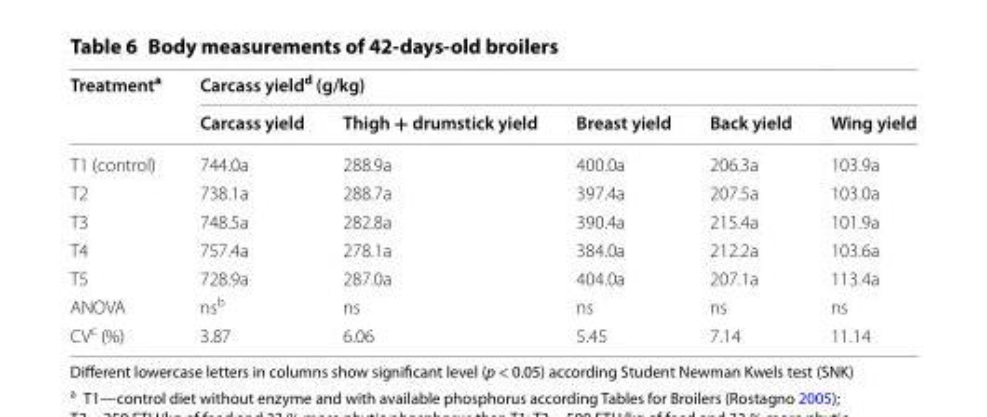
<table><thead><tr><td rowspan="2">Treatment<sup>a</sup></td><td colspan="5">Carcass yield<sup>d</sup> (g/kg)</td></tr><tr><td>Carcass yield</td><td>Thigh + drumstick yield</td><td>Breast yield</td><td>Back yield</td><td>Wing yield</td></tr></thead><tbody><tr><td>T1 (control)</td><td>744.0a</td><td>288.9a</td><td>400.0a</td><td>206.3a</td><td>103.9a</td></tr><tr><td>T2</td><td>738.1a</td><td>288.7a</td><td>397.4a</td><td>207.5a</td><td>103.0a</td></tr><tr><td>T3</td><td>748.5a</td><td>282.8a</td><td>390.4a</td><td>215.4a</td><td>101.9a</td></tr><tr><td>T4</td><td>757.4a</td><td>278.1a</td><td>384.0a</td><td>212.2a</td><td>103.6a</td></tr><tr><td>T5</td><td>728.9a</td><td>287.0a</td><td>404.0a</td><td>207.1a</td><td>113.4a</td></tr><tr><td>ANOVA</td><td>ns<sup>b</sup></td><td>ns</td><td>ns</td><td>ns</td><td>ns</td></tr><tr><td>CV<sup>c</sup> (%)</td><td>3.87</td><td>6.06</td><td>5.45</td><td>7.14</td><td>11.14</td></tr></tbody></table>